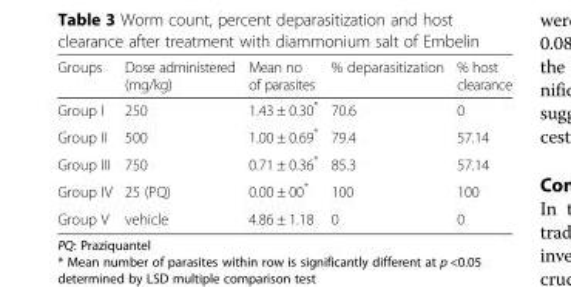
<table><thead><tr><td>Groups</td><td>Dose administered (mg/kg)</td><td>Mean no of parasites</td><td>% deparasitization</td><td>% host clearance</td></tr></thead><tbody><tr><td>Group I</td><td>250</td><td>1.43 ± 0.30*</td><td>70.6</td><td>0</td></tr><tr><td>Group II</td><td>500</td><td>1.00 ± 0.69*</td><td>79.4</td><td>57.14</td></tr><tr><td>Group III</td><td>750</td><td>0.71 ± 0.36*</td><td>85.3</td><td>57.14</td></tr><tr><td>Group IV</td><td>25 (PQ)</td><td>0.00 ± 00*</td><td>100</td><td>100</td></tr><tr><td>Group V</td><td>vehicle</td><td>4.86 ± 1.18</td><td>0</td><td>0</td></tr></tbody></table>